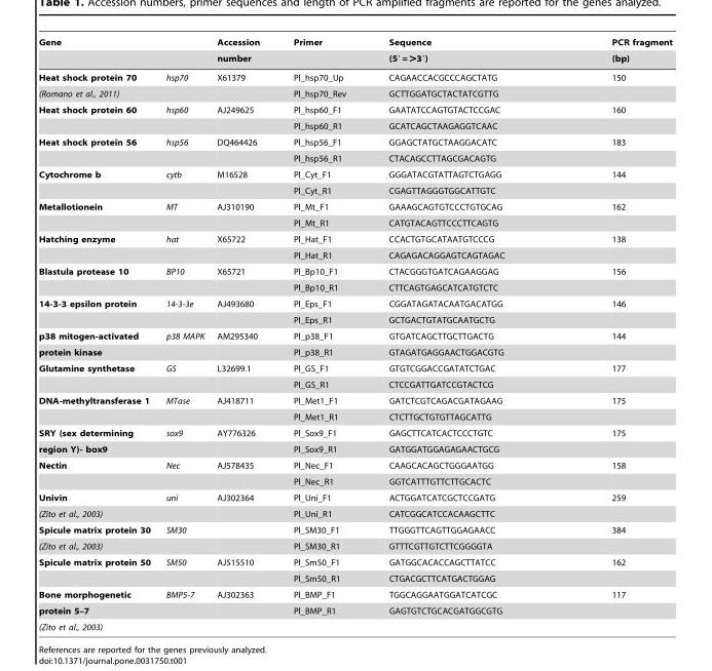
<table><thead><tr><td rowspan="2">Gene</td><td rowspan="2"></td><td rowspan="2">Accession number</td><td rowspan="2">Primer</td><td rowspan="2">Sequence (5′ = &gt;3′)</td><td rowspan="2">PCR fragment (bp)</td></tr><tr></tr></thead><tbody><tr><td>Heat shock protein 70</td><td>hsp70</td><td>X61379</td><td>Pl_hsp70_Up</td><td>CAGAACCACGCCCAGCTATG</td><td>150</td></tr><tr><td>(Romano et al., 2011)</td><td></td><td></td><td>Pl_hsp70_Rev</td><td>GCTTGGATGCTACTATCGTTG</td><td></td></tr><tr><td rowspan="2">Heat shock protein 60</td><td>hsp60</td><td>AJ249625</td><td>Pl_hsp60_F1</td><td>GAATATCCAGTGTACTCCGAC</td><td>160</td></tr><tr><td></td><td></td><td>Pl_hsp60_R1</td><td>GCATCAGCTAAGAGGTCAAC</td><td></td></tr><tr><td rowspan="2">Heat shock protein 56</td><td>hsp56</td><td>DQ464426</td><td>Pl_hsp56_F1</td><td>GGAGCTATGCTAAGGACATC</td><td>183</td></tr><tr><td></td><td></td><td>Pl_hsp56_R1</td><td>CTACAGCCTTAGCGACAGTG</td><td></td></tr><tr><td rowspan="2">Cytochrome b</td><td>cytb</td><td>M16528</td><td>Pl_Cyt_F1</td><td>GGGATACGTATTAGTCTGAGG</td><td>144</td></tr><tr><td></td><td></td><td>Pl_Cyt_R1</td><td>CGAGTTAGGGTGGCATTGTC</td><td></td></tr><tr><td rowspan="2">Metallotionein</td><td>MT</td><td>AJ310190</td><td>Pl_Mt_F1</td><td>GAAAGCAGTGTCCCTGTGCAG</td><td>162</td></tr><tr><td></td><td></td><td>Pl_Mt_R1</td><td>CATGTACAGTTCCCTTCAGTG</td><td></td></tr><tr><td rowspan="2">Hatching enzyme</td><td>hat</td><td>X65722</td><td>Pl_Hat_F1</td><td>CCACTGTGCATAATGTCCCG</td><td>138</td></tr><tr><td></td><td></td><td>Pl_Hat_R1</td><td>CAGAGACAGGAGTCAGTAGAC</td><td></td></tr><tr><td rowspan="2">Blastula protease 10</td><td>BP10</td><td>X65721</td><td>Pl_Bp10_F1</td><td>CTACGGGTGATCAGAAGGAG</td><td>156</td></tr><tr><td></td><td></td><td>Pl_Bp10_R1</td><td>CTTCAGTGAGCATCATGTCTC</td><td></td></tr><tr><td rowspan="2">14-3-3 epsilon protein</td><td>14-3-3e</td><td>AJ493680</td><td>Pl_Eps_F1</td><td>CGGATAGATACAATGACATGG</td><td>146</td></tr><tr><td></td><td></td><td>Pl_Eps_R1</td><td>GCTGACTGTATGCAATGCTG</td><td></td></tr><tr><td>p38 mitogen-activated</td><td>p38 MAPK</td><td>AM295340</td><td>Pl_p38_F1</td><td>GTGATCAGCTTGCTTGACTG</td><td>144</td></tr><tr><td>protein kinase</td><td></td><td></td><td>Pl_p38_R1</td><td>GTAGATGAGGAACTGGACGTG</td><td></td></tr><tr><td rowspan="2">Glutamine synthetase</td><td>GS</td><td>L32699.1</td><td>Pl_GS_F1</td><td>GTGTCGGACCGATATCTGAC</td><td>177</td></tr><tr><td></td><td></td><td>Pl_GS_R1</td><td>CTCCGATTGATCCGTACTCG</td><td></td></tr><tr><td rowspan="2">DNA-methyltransferase 1</td><td>MTase</td><td>AJ418711</td><td>Pl_Met1_F1</td><td>GATCTCGTCAGACGATAGAAG</td><td>175</td></tr><tr><td></td><td></td><td>Pl_Met1_R1</td><td>CTCTTGCTGTGTTAGCATTG</td><td></td></tr><tr><td>SRY (sex determining</td><td>sox9</td><td>AY776326</td><td>Pl_Sox9_F1</td><td>GAGCTTCATCACTCCCTGTC</td><td>175</td></tr><tr><td>region Y)- box9</td><td></td><td></td><td>Pl_Sox9_R1</td><td>GATGGATGGAGAGAACTGCG</td><td></td></tr><tr><td rowspan="2">Nectin</td><td>Nec</td><td>AJ578435</td><td>Pl_Nec_F1</td><td>CAAGCACAGCTGGGAATGG</td><td>158</td></tr><tr><td></td><td></td><td>Pl_Nec_R1</td><td>GGTCATTTGTTCTTGCACTC</td><td></td></tr><tr><td>Univin</td><td>uni</td><td>AJ302364</td><td>Pl_Uni_F1</td><td>ACTGGATCATCGCTCCGATG</td><td>259</td></tr><tr><td>(Zito et al., 2003)</td><td></td><td></td><td>Pl_Uni_R1</td><td>CATCGGCATCCACAAGCTTC</td><td></td></tr><tr><td>Spicule matrix protein 30</td><td>SM30</td><td></td><td>Pl_SM30_F1</td><td>TTGGGTTCAGTTGGAGAACC</td><td>384</td></tr><tr><td>(Zito et al., 2003)</td><td></td><td></td><td>Pl_SM30_R1</td><td>GTTTCGTTGTCTTCGGGGTA</td><td></td></tr><tr><td rowspan="2">Spicule matrix protein 50</td><td>SM50</td><td>AJ515510</td><td>Pl_Sm50_F1</td><td>GATGGCACACCAGCTTATCC</td><td>162</td></tr><tr><td></td><td></td><td>Pl_Sm50_R1</td><td>CTGACGCTTCATGACTGGAG</td><td></td></tr><tr><td>Bone morphogenetic</td><td>BMP5-7</td><td>AJ302363</td><td>Pl_BMP_F1</td><td>TGGCAGGAATGGATCATCGC</td><td>117</td></tr><tr><td>protein 5–7</td><td></td><td></td><td>Pl_BMP_R1</td><td>GAGTGTCTGCACGATGGCGTG</td><td></td></tr><tr><td>(Zito et al., 2003)</td><td></td><td></td><td></td><td></td><td></td></tr></tbody></table>